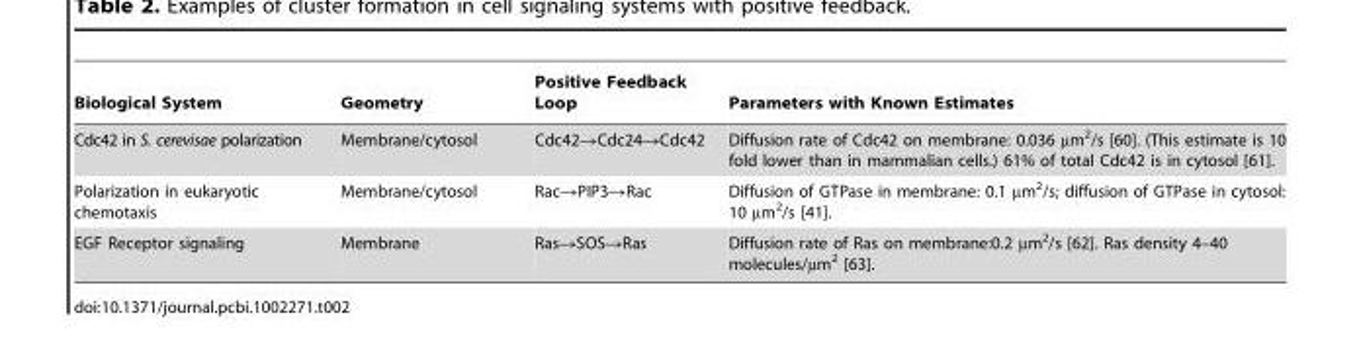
<table><thead><tr><td>Biological System</td><td>Geometry</td><td>Positive Feedback Loop</td><td>Parameters with Known Estimates</td></tr></thead><tbody><tr><td>Cdc42 in S. cerevisae polarization</td><td>Membrane/cytosol</td><td>Cdc42→Cdc24→Cdc42</td><td>Diffusion rate of Cdc42 on membrane: 0.036 µm<sup>2</sup>/s [60]. (This estimate is 10 fold lower than in mammalian cells.) 61% of total Cdc42 is in cytosol [61].</td></tr><tr><td>Polarization in eukaryotic chemotaxis</td><td>Membrane/cytosol</td><td>Rac→PIP3→Rac</td><td>Diffusion of GTPase in membrane: 0.1 µm<sup>2</sup>/s; diffusion of GTPase in cytosol: 10 µm<sup>2</sup>/s [41].</td></tr><tr><td>EGF Receptor signaling</td><td>Membrane</td><td>Ras→SOS→Ras</td><td>Diffusion rate of Ras on membrane:0.2 µm<sup>2</sup>/s [62]. Ras density 4–40 molecules/µm<sup>2</sup> [63].</td></tr></tbody></table>